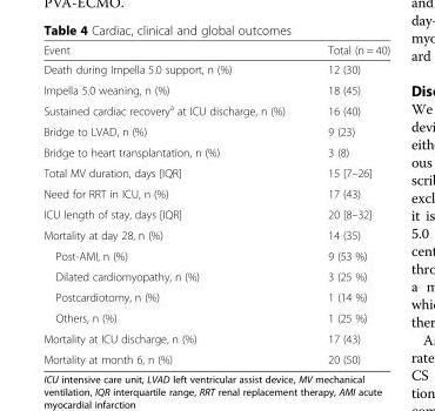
<table><thead><tr><td>Event</td><td>Total (n = 40)</td></tr></thead><tbody><tr><td>Death during Impella 5.0 support, n (%)</td><td>12 (30)</td></tr><tr><td>Impella 5.0 weaning, n (%)</td><td>18 (45)</td></tr><tr><td>Sustained cardiac recovery<sup>a</sup> at ICU discharge, n (%)</td><td>16 (40)</td></tr><tr><td>Bridge to LVAD, n (%)</td><td>9 (23)</td></tr><tr><td>Bridge to heart transplantation, n (%)</td><td>3 (8)</td></tr><tr><td>Total MV duration, days [IQR]</td><td>15 [7–26]</td></tr><tr><td>Need for RRT in ICU, n (%)</td><td>17 (43)</td></tr><tr><td>ICU length of stay, days [IQR]</td><td>20 [8–32]</td></tr><tr><td>Mortality at day 28, n (%)</td><td>14 (35)</td></tr><tr><td>Post-AMI, n (%)</td><td>9 (53 %)</td></tr><tr><td>Dilated cardiomyopathy, n (%)</td><td>3 (25 %)</td></tr><tr><td>Postcardiotomy, n (%)</td><td>1 (14 %)</td></tr><tr><td>Others, n (%)</td><td>1 (25 %)</td></tr><tr><td>Mortality at ICU discharge, n (%)</td><td>17 (43)</td></tr><tr><td>Mortality at month 6, n (%)</td><td>20 (50)</td></tr></tbody></table>